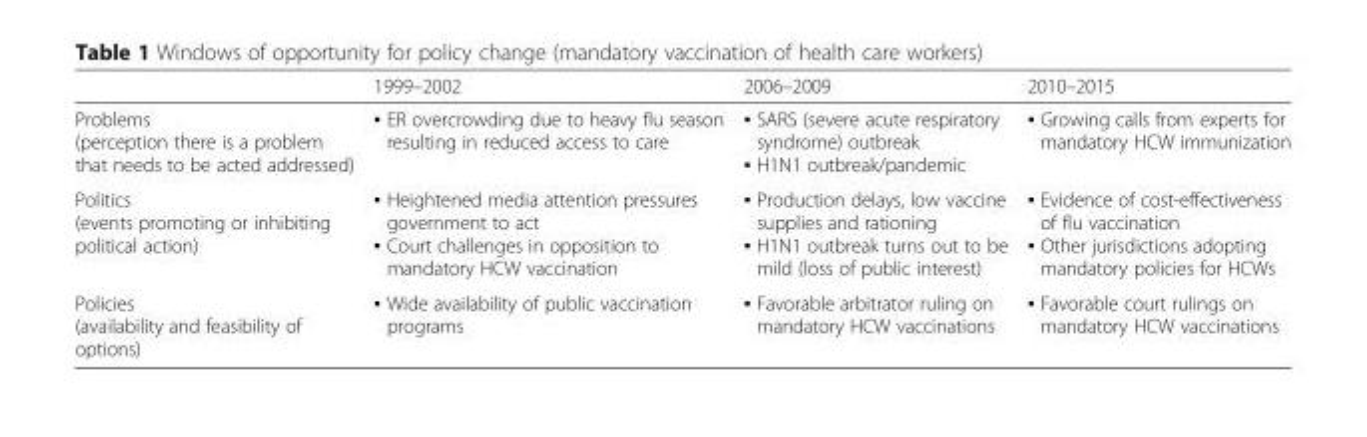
<table><thead><tr><td></td><td>1999–2002</td><td>2006–2009</td><td>2010–2015</td></tr></thead><tbody><tr><td>Problems (perception there is a problem that needs to be acted addressed)</td><td>▪ ER overcrowding due to heavy flu season resulting in reduced access to care</td><td>▪ SARS (severe acute respiratory syndrome) outbreak ▪ H1N1 outbreak/pandemic</td><td>▪ Growing calls from experts for mandatory HCW immunization</td></tr><tr><td>Politics (events promoting or inhibiting political action)</td><td>▪ Heightened media attention pressures government to act ▪ Court challenges in opposition to mandatory HCW vaccination</td><td>▪ Production delays, low vaccine supplies and rationing ▪ H1N1 outbreak turns out to be mild (loss of public interest)</td><td>▪ Evidence of cost-effectiveness of flu vaccination ▪ Other jurisdictions adopting mandatory policies for HCWs</td></tr><tr><td>Policies (availability and feasibility of options)</td><td>▪ Wide availability of public vaccination programs</td><td>▪ Favorable arbitrator ruling on mandatory HCW vaccinations</td><td>▪ Favorable court rulings on mandatory HCW vaccinations</td></tr></tbody></table>